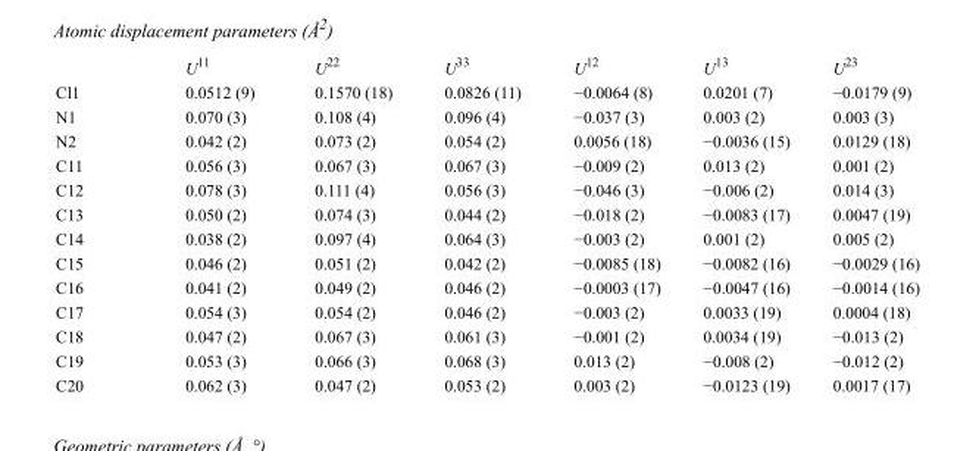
<table><thead><tr><td></td><td>U<sup>11</sup></td><td>U<sup>22</sup></td><td>U<sup>33</sup></td><td>U<sup>12</sup></td><td>U<sup>13</sup></td><td>U<sup>23</sup></td></tr></thead><tbody><tr><td>Cl1</td><td>0.0512 (9)</td><td>0.1570 (18)</td><td>0.0826 (11)</td><td>−0.0064 (8)</td><td>0.0201 (7)</td><td>−0.0179 (9)</td></tr><tr><td>N1</td><td>0.070 (3)</td><td>0.108 (4)</td><td>0.096 (4)</td><td>−0.037 (3)</td><td>0.003 (2)</td><td>0.003 (3)</td></tr><tr><td>N2</td><td>0.042 (2)</td><td>0.073 (2)</td><td>0.054 (2)</td><td>0.0056 (18)</td><td>−0.0036 (15)</td><td>0.0129 (18)</td></tr><tr><td>C11</td><td>0.056 (3)</td><td>0.067 (3)</td><td>0.067 (3)</td><td>−0.009 (2)</td><td>0.013 (2)</td><td>0.001 (2)</td></tr><tr><td>C12</td><td>0.078 (3)</td><td>0.111 (4)</td><td>0.056 (3)</td><td>−0.046 (3)</td><td>−0.006 (2)</td><td>0.014 (3)</td></tr><tr><td>C13</td><td>0.050 (2)</td><td>0.074 (3)</td><td>0.044 (2)</td><td>−0.018 (2)</td><td>−0.0083 (17)</td><td>0.0047 (19)</td></tr><tr><td>C14</td><td>0.038 (2)</td><td>0.097 (4)</td><td>0.064 (3)</td><td>−0.003 (2)</td><td>0.001 (2)</td><td>0.005 (2)</td></tr><tr><td>C15</td><td>0.046 (2)</td><td>0.051 (2)</td><td>0.042 (2)</td><td>−0.0085 (18)</td><td>−0.0082 (16)</td><td>−0.0029 (16)</td></tr><tr><td>C16</td><td>0.041 (2)</td><td>0.049 (2)</td><td>0.046 (2)</td><td>−0.0003 (17)</td><td>−0.0047 (16)</td><td>−0.0014 (16)</td></tr><tr><td>C17</td><td>0.054 (3)</td><td>0.054 (2)</td><td>0.046 (2)</td><td>−0.003 (2)</td><td>0.0033 (19)</td><td>0.0004 (18)</td></tr><tr><td>C18</td><td>0.047 (2)</td><td>0.067 (3)</td><td>0.061 (3)</td><td>−0.001 (2)</td><td>0.0034 (19)</td><td>−0.013 (2)</td></tr><tr><td>C19</td><td>0.053 (3)</td><td>0.066 (3)</td><td>0.068 (3)</td><td>0.013 (2)</td><td>−0.008 (2)</td><td>−0.012 (2)</td></tr><tr><td>C20</td><td>0.062 (3)</td><td>0.047 (2)</td><td>0.053 (2)</td><td>0.003 (2)</td><td>−0.0123 (19)</td><td>0.0017 (17)</td></tr></tbody></table>